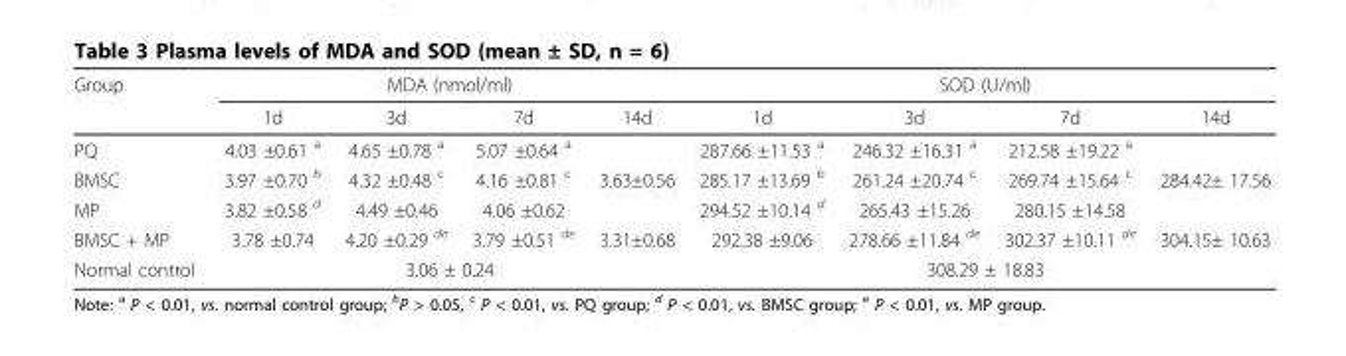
<table><thead><tr><td rowspan="2">Group</td><td colspan="4">MDA (nmol/ml)</td><td colspan="4">SOD (U/ml)</td></tr><tr><td>1d</td><td>3d</td><td>7d</td><td>14d</td><td>1d</td><td>3d</td><td>7d</td><td>14d</td></tr></thead><tbody><tr><td>PQ</td><td>4.03 ±0.61 <sup>a</sup></td><td>4.65 ±0.78 <sup>a</sup></td><td>5.07 ±0.64 <sup>a</sup></td><td></td><td>287.66 ±11.53 <sup>a</sup></td><td>246.32 ±16.31 <sup>a</sup></td><td>212.58 ±19.22 <sup>a</sup></td><td></td></tr><tr><td>BMSC</td><td>3.97 ±0.70 <sup>b</sup></td><td>4.32 ±0.48 <sup>c</sup></td><td>4.16 ±0.81 <sup>c</sup></td><td>3.63±0.56</td><td>285.17 ±13.69 <sup>b</sup></td><td>261.24 ±20.74 <sup>c</sup></td><td>269.74 ±15.64 <sup>c</sup></td><td>284.42± 17.56</td></tr><tr><td>MP</td><td>3.82 ±0.58 <sup>d</sup></td><td>4.49 ±0.46</td><td>4.06 ±0.62</td><td></td><td>294.52 ±10.14 <sup>d</sup></td><td>265.43 ±15.26</td><td>280.15 ±14.58</td><td></td></tr><tr><td>BMSC + MP</td><td>3.78 ±0.74</td><td>4.20 ±0.29 <sup>de</sup></td><td>3.79 ±0.51 <sup>de</sup></td><td>3.31±0.68</td><td>292.38 ±9.06</td><td>278.66 ±11.84 <sup>de</sup></td><td>302.37 ±10.11 <sup>de</sup></td><td>304.15± 10.63</td></tr><tr><td>Normal control</td><td colspan="4">3.06 ± 0.24</td><td colspan="4">308.29 ± 18.83</td></tr></tbody></table>